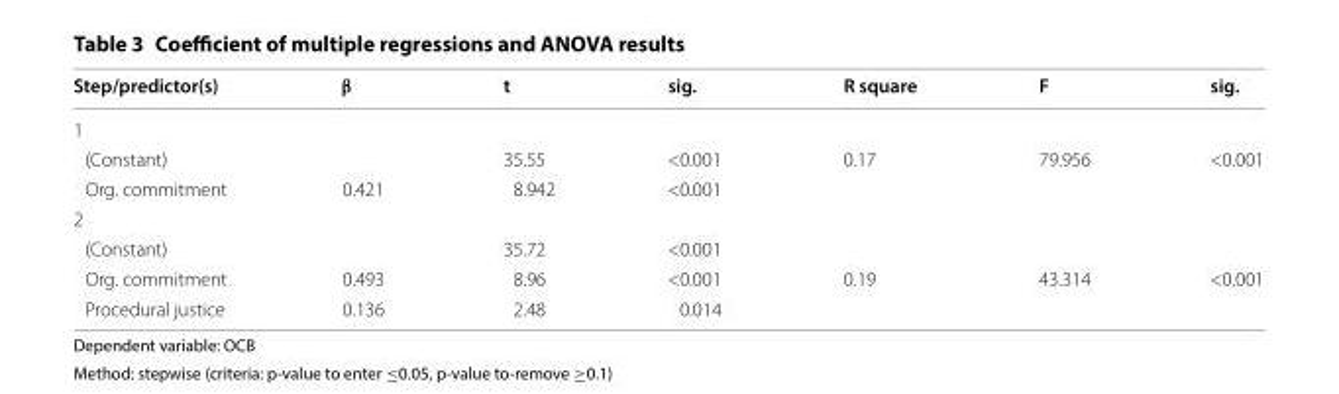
<table><thead><tr><td>Step/predictor(s)</td><td>β</td><td>t</td><td>sig.</td><td>R square</td><td>F</td><td>sig.</td></tr></thead><tbody><tr><td colspan="7">1</td></tr><tr><td>(Constant)</td><td></td><td>35.55</td><td>&lt;0.001</td><td>0.17</td><td>79.956</td><td>&lt;0.001</td></tr><tr><td>Org. commitment</td><td>0.421</td><td>8.942</td><td>&lt;0.001</td><td></td><td></td><td></td></tr><tr><td colspan="7">2</td></tr><tr><td>(Constant)</td><td></td><td>35.72</td><td>&lt;0.001</td><td></td><td></td><td></td></tr><tr><td>Org. commitment</td><td>0.493</td><td>8.96</td><td>&lt;0.001</td><td>0.19</td><td>43.314</td><td>&lt;0.001</td></tr><tr><td>Procedural justice</td><td>0.136</td><td>2.48</td><td>0.014</td><td></td><td></td><td></td></tr></tbody></table>